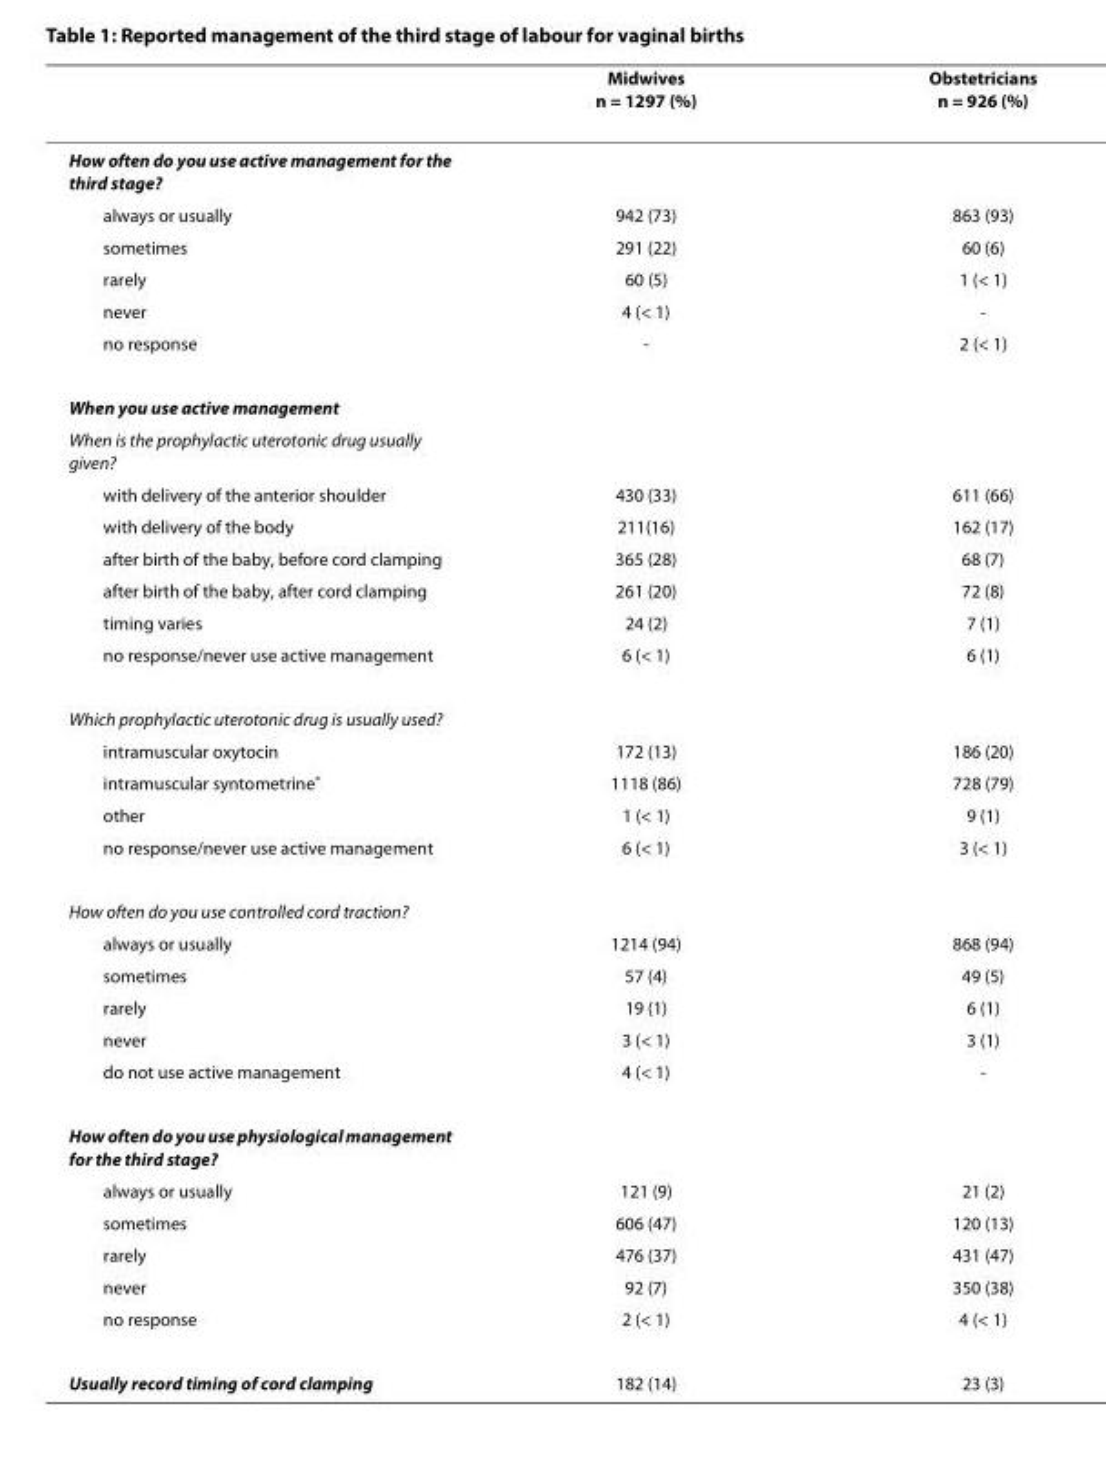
<table><thead><tr><td></td><td>Midwives n = 1297 (%)</td><td>Obstetricians n = 926 (%)</td></tr></thead><tbody><tr><td colspan="3">How often do you use active management for the third stage?</td></tr><tr><td>always or usually</td><td>942 (73)</td><td>863 (93)</td></tr><tr><td>sometimes</td><td>291 (22)</td><td>60 (6)</td></tr><tr><td>rarely</td><td>60 (5)</td><td>1 (&lt; 1)</td></tr><tr><td>never</td><td>4 (&lt; 1)</td><td>-</td></tr><tr><td>no response</td><td>-</td><td>2 (&lt; 1)</td></tr><tr><td colspan="3">When you use active management</td></tr><tr><td colspan="3">When is the prophylactic uterotonic drug usually given?</td></tr><tr><td>with delivery of the anterior shoulder</td><td>430 (33)</td><td>611 (66)</td></tr><tr><td>with delivery of the body</td><td>211(16)</td><td>162 (17)</td></tr><tr><td>after birth of the baby, before cord clamping</td><td>365 (28)</td><td>68 (7)</td></tr><tr><td>after birth of the baby, after cord clamping</td><td>261 (20)</td><td>72 (8)</td></tr><tr><td>timing varies</td><td>24 (2)</td><td>7 (1)</td></tr><tr><td>no response/never use active management</td><td>6 (&lt; 1)</td><td>6 (1)</td></tr><tr><td colspan="3">Which prophylactic uterotonic drug is usually used?</td></tr><tr><td>intramuscular oxytocin</td><td>172 (13)</td><td>186 (20)</td></tr><tr><td>intramuscular syntometrine<sup>®</sup></td><td>1118 (86)</td><td>728 (79)</td></tr><tr><td>other</td><td>1 (&lt; 1)</td><td>9 (1)</td></tr><tr><td>no response/never use active management</td><td>6 (&lt; 1)</td><td>3 (&lt; 1)</td></tr><tr><td colspan="3">How often do you use controlled cord traction?</td></tr><tr><td>always or usually</td><td>1214 (94)</td><td>868 (94)</td></tr><tr><td>sometimes</td><td>57 (4)</td><td>49 (5)</td></tr><tr><td>rarely</td><td>19 (1)</td><td>6 (1)</td></tr><tr><td>never</td><td>3 (&lt; 1)</td><td>3 (1)</td></tr><tr><td>do not use active management</td><td>4 (&lt; 1)</td><td>-</td></tr><tr><td colspan="3">How often do you use physiological management for the third stage?</td></tr><tr><td>always or usually</td><td>121 (9)</td><td>21 (2)</td></tr><tr><td>sometimes</td><td>606 (47)</td><td>120 (13)</td></tr><tr><td>rarely</td><td>476 (37)</td><td>431 (47)</td></tr><tr><td>never</td><td>92 (7)</td><td>350 (38)</td></tr><tr><td>no response</td><td>2 (&lt; 1)</td><td>4 (&lt; 1)</td></tr><tr><td>Usually record timing of cord clamping</td><td>182 (14)</td><td>23 (3)</td></tr></tbody></table>